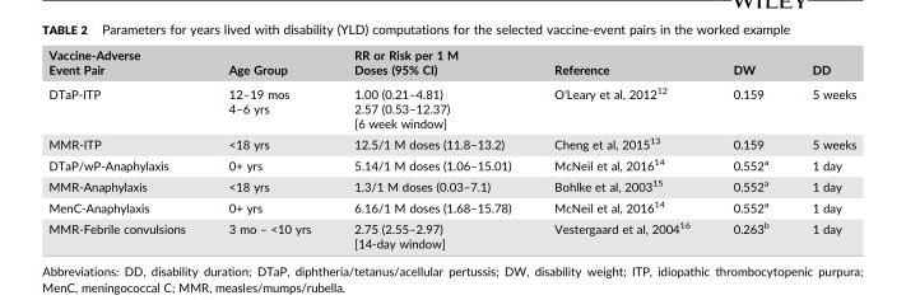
<table><thead><tr><td>Vaccine‐Adverse Event Pair</td><td>Age Group</td><td>RR or Risk per 1 M Doses (95% CI)</td><td>Reference</td><td>DW</td><td>DD</td></tr></thead><tbody><tr><td>DTaP‐ITP</td><td>12–19 mos 4–6 yrs</td><td>1.00 (0.21–4.81) 2.57 (0.53–12.37) [6 week window]</td><td>O&#x27;Leary et al, 2012<sup>12</sup></td><td>0.159</td><td>5 weeks</td></tr><tr><td>MMR‐ITP</td><td>&lt;18 yrs</td><td>12.5/1 M doses (11.8–13.2)</td><td>Cheng et al, 2015<sup>13</sup></td><td>0.159</td><td>5 weeks</td></tr><tr><td>DTaP/wP‐Anaphylaxis</td><td>0+ yrs</td><td>5.14/1 M doses (1.06–15.01)</td><td>McNeil et al, 2016<sup>14</sup></td><td>0.552<sup>a</sup></td><td>1 day</td></tr><tr><td>MMR‐Anaphylaxis</td><td>&lt;18 yrs</td><td>1.3/1 M doses (0.03–7.1)</td><td>Bohlke et al, 2003<sup>15</sup></td><td>0.552<sup>a</sup></td><td>1 day</td></tr><tr><td>MenC‐Anaphylaxis</td><td>0+ yrs</td><td>6.16/1 M doses (1.68–15.78)</td><td>McNeil et al, 2016<sup>14</sup></td><td>0.552<sup>a</sup></td><td>1 day</td></tr><tr><td>MMR‐Febrile convulsions</td><td>3 mo – &lt;10 yrs</td><td>2.75 (2.55–2.97) [14‐day window]</td><td>Vestergaard et al, 2004<sup>16</sup></td><td>0.263<sup>b</sup></td><td>1 day</td></tr></tbody></table>